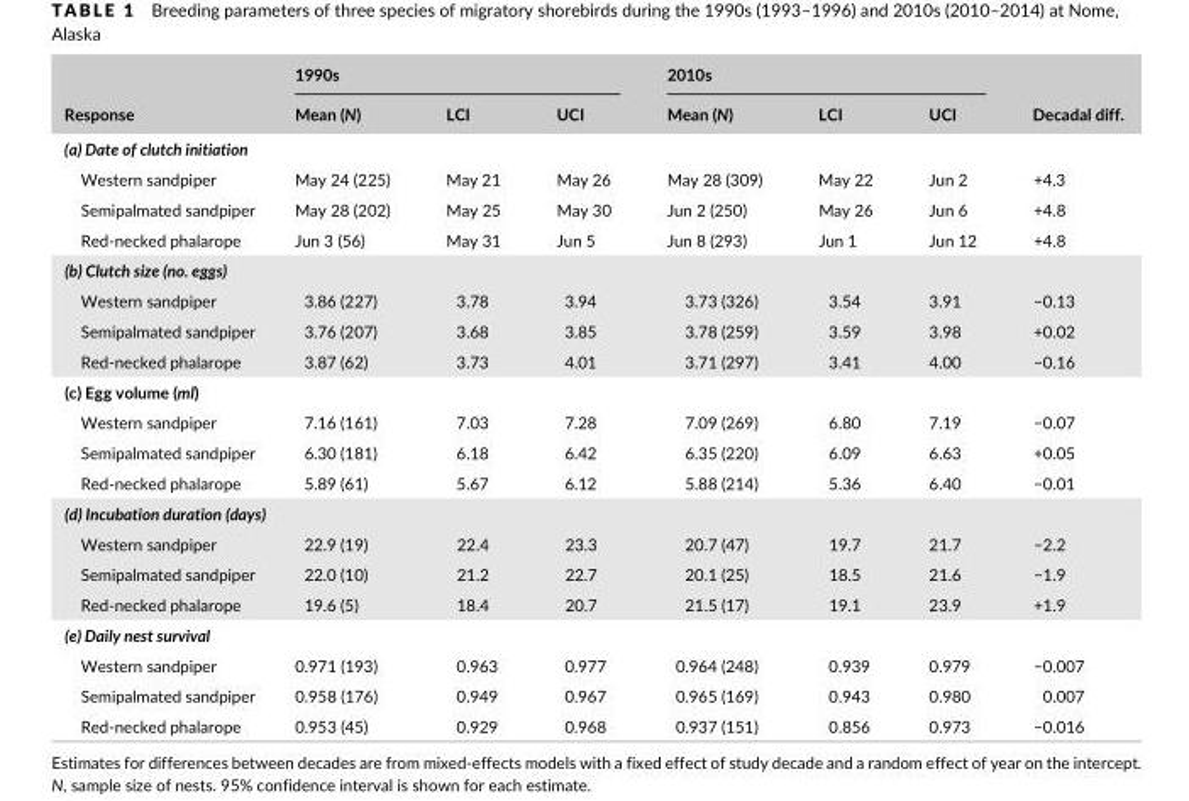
<table><thead><tr><td rowspan="2">Response</td><td colspan="3">1990s</td><td colspan="3">2010s</td><td rowspan="2">Decadal diff.</td></tr><tr><td>Mean (N)</td><td>LCI</td><td>UCI</td><td>Mean (N)</td><td>LCI</td><td>UCI</td></tr></thead><tbody><tr><td colspan="8">(a) Date of clutch initiation</td></tr><tr><td>Western sandpiper</td><td>May 24 (225)</td><td>May 21</td><td>May 26</td><td>May 28 (309)</td><td>May 22</td><td>Jun 2</td><td>+4.3</td></tr><tr><td>Semipalmated sandpiper</td><td>May 28 (202)</td><td>May 25</td><td>May 30</td><td>Jun 2 (250)</td><td>May 26</td><td>Jun 6</td><td>+4.8</td></tr><tr><td>Red- necked phalarope</td><td>Jun 3 (56)</td><td>May 31</td><td>Jun 5</td><td>Jun 8 (293)</td><td>Jun 1</td><td>Jun 12</td><td>+4.8</td></tr><tr><td colspan="8">(b) Clutch size (no. eggs)</td></tr><tr><td>Western sandpiper</td><td>3.86 (227)</td><td>3.78</td><td>3.94</td><td>3.73 (326)</td><td>3.54</td><td>3.91</td><td>−0.13</td></tr><tr><td>Semipalmated sandpiper</td><td>3.76 (207)</td><td>3.68</td><td>3.85</td><td>3.78 (259)</td><td>3.59</td><td>3.98</td><td>+0.02</td></tr><tr><td>Red- necked phalarope</td><td>3.87 (62)</td><td>3.73</td><td>4.01</td><td>3.71 (297)</td><td>3.41</td><td>4.00</td><td>−0.16</td></tr><tr><td colspan="8">(c) Egg volume (ml)</td></tr><tr><td>Western sandpiper</td><td>7.16 (161)</td><td>7.03</td><td>7.28</td><td>7.09 (269)</td><td>6.80</td><td>7.19</td><td>−0.07</td></tr><tr><td>Semipalmated sandpiper</td><td>6.30 (181)</td><td>6.18</td><td>6.42</td><td>6.35 (220)</td><td>6.09</td><td>6.63</td><td>+0.05</td></tr><tr><td>Red- necked phalarope</td><td>5.89 (61)</td><td>5.67</td><td>6.12</td><td>5.88 (214)</td><td>5.36</td><td>6.40</td><td>−0.01</td></tr><tr><td colspan="8">(d) Incubation duration (days)</td></tr><tr><td>Western sandpiper</td><td>22.9 (19)</td><td>22.4</td><td>23.3</td><td>20.7 (47)</td><td>19.7</td><td>21.7</td><td>−2.2</td></tr><tr><td>Semipalmated sandpiper</td><td>22.0 (10)</td><td>21.2</td><td>22.7</td><td>20.1 (25)</td><td>18.5</td><td>21.6</td><td>−1.9</td></tr><tr><td>Red- necked phalarope</td><td>19.6 (5)</td><td>18.4</td><td>20.7</td><td>21.5 (17)</td><td>19.1</td><td>23.9</td><td>+1.9</td></tr><tr><td colspan="8">(e) Daily nest survival</td></tr><tr><td>Western sandpiper</td><td>0.971 (193)</td><td>0.963</td><td>0.977</td><td>0.964 (248)</td><td>0.939</td><td>0.979</td><td>−0.007</td></tr><tr><td>Semipalmated sandpiper</td><td>0.958 (176)</td><td>0.949</td><td>0.967</td><td>0.965 (169)</td><td>0.943</td><td>0.980</td><td>0.007</td></tr><tr><td>Red- necked phalarope</td><td>0.953 (45)</td><td>0.929</td><td>0.968</td><td>0.937 (151)</td><td>0.856</td><td>0.973</td><td>−0.016</td></tr></tbody></table>